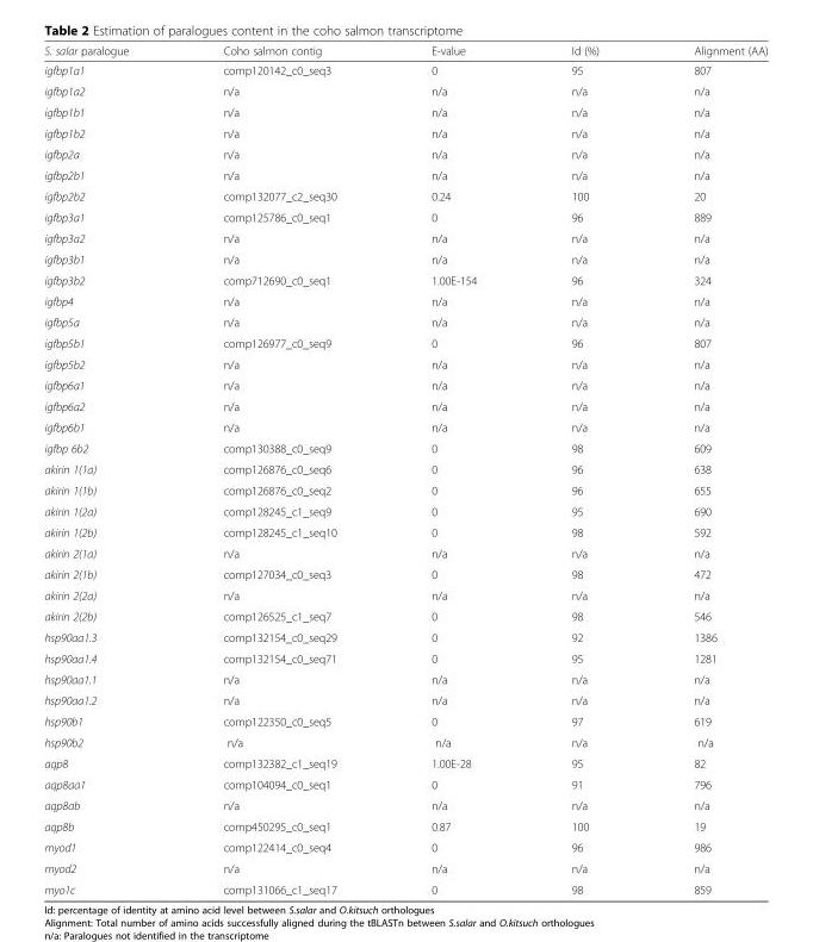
<table><thead><tr><td>S. salar paralogue</td><td>Coho salmon contig</td><td>E-value</td><td>Id (%)</td><td>Alignment (AA)</td></tr></thead><tbody><tr><td>igfbp1a1</td><td>comp120142_c0_seq3</td><td>0</td><td>95</td><td>807</td></tr><tr><td>igfbp1a2</td><td>n/a</td><td>n/a</td><td>n/a</td><td>n/a</td></tr><tr><td>igfbp1b1</td><td>n/a</td><td>n/a</td><td>n/a</td><td>n/a</td></tr><tr><td>igfbp1b2</td><td>n/a</td><td>n/a</td><td>n/a</td><td>n/a</td></tr><tr><td>igfbp2a</td><td>n/a</td><td>n/a</td><td>n/a</td><td>n/a</td></tr><tr><td>igfbp2b1</td><td>n/a</td><td>n/a</td><td>n/a</td><td>n/a</td></tr><tr><td>igfbp2b2</td><td>comp132077_c2_seq30</td><td>0.24</td><td>100</td><td>20</td></tr><tr><td>igfbp3a1</td><td>comp125786_c0_seq1</td><td>0</td><td>96</td><td>889</td></tr><tr><td>igfbp3a2</td><td>n/a</td><td>n/a</td><td>n/a</td><td>n/a</td></tr><tr><td>igfbp3b1</td><td>n/a</td><td>n/a</td><td>n/a</td><td>n/a</td></tr><tr><td>igfbp3b2</td><td>comp712690_c0_seq1</td><td>1.00E-154</td><td>96</td><td>324</td></tr><tr><td>igfbp4</td><td>n/a</td><td>n/a</td><td>n/a</td><td>n/a</td></tr><tr><td>igfbp5a</td><td>n/a</td><td>n/a</td><td>n/a</td><td>n/a</td></tr><tr><td>igfbp5b1</td><td>comp126977_c0_seq9</td><td>0</td><td>96</td><td>807</td></tr><tr><td>igfbp5b2</td><td>n/a</td><td>n/a</td><td>n/a</td><td>n/a</td></tr><tr><td>igfbp6a1</td><td>n/a</td><td>n/a</td><td>n/a</td><td>n/a</td></tr><tr><td>igfbp6a2</td><td>n/a</td><td>n/a</td><td>n/a</td><td>n/a</td></tr><tr><td>igfbp6b1</td><td>n/a</td><td>n/a</td><td>n/a</td><td>n/a</td></tr><tr><td>igfbp 6b2</td><td>comp130388_c0_seq9</td><td>0</td><td>98</td><td>609</td></tr><tr><td>akirin 1(1a)</td><td>comp126876_c0_seq6</td><td>0</td><td>96</td><td>638</td></tr><tr><td>akirin 1(1b)</td><td>comp126876_c0_seq2</td><td>0</td><td>96</td><td>655</td></tr><tr><td>akirin 1(2a)</td><td>comp128245_c1_seq9</td><td>0</td><td>95</td><td>690</td></tr><tr><td>akirin 1(2b)</td><td>comp128245_c1_seq10</td><td>0</td><td>98</td><td>592</td></tr><tr><td>akirin 2(1a)</td><td>n/a</td><td>n/a</td><td>n/a</td><td>n/a</td></tr><tr><td>akirin 2(1b)</td><td>comp127034_c0_seq3</td><td>0</td><td>98</td><td>472</td></tr><tr><td>akirin 2(2a)</td><td>n/a</td><td>n/a</td><td>n/a</td><td>n/a</td></tr><tr><td>akirin 2(2b)</td><td>comp126525_c1_seq7</td><td>0</td><td>98</td><td>546</td></tr><tr><td>hsp90aa1.3</td><td>comp132154_c0_seq29</td><td>0</td><td>92</td><td>1386</td></tr><tr><td>hsp90aa1.4</td><td>comp132154_c0_seq71</td><td>0</td><td>95</td><td>1281</td></tr><tr><td>hsp90aa1.1</td><td>n/a</td><td>n/a</td><td>n/a</td><td>n/a</td></tr><tr><td>hsp90aa1.2</td><td>n/a</td><td>n/a</td><td>n/a</td><td>n/a</td></tr><tr><td>hsp90b1</td><td>comp122350_c0_seq5</td><td>0</td><td>97</td><td>619</td></tr><tr><td>hsp90b2</td><td>n/a</td><td>n/a</td><td>n/a</td><td>n/a</td></tr><tr><td>aqp8</td><td>comp132382_c1_seq19</td><td>1.00E-28</td><td>95</td><td>82</td></tr><tr><td>aqp8aa1</td><td>comp104094_c0_seq1</td><td>0</td><td>91</td><td>796</td></tr><tr><td>aqp8ab</td><td>n/a</td><td>n/a</td><td>n/a</td><td>n/a</td></tr><tr><td>aqp8b</td><td>comp450295_c0_seq1</td><td>0.87</td><td>100</td><td>19</td></tr><tr><td>myod1</td><td>comp122414_c0_seq4</td><td>0</td><td>96</td><td>986</td></tr><tr><td>myod2</td><td>n/a</td><td>n/a</td><td>n/a</td><td>n/a</td></tr><tr><td>myo1c</td><td>comp131066_c1_seq17</td><td>0</td><td>98</td><td>859</td></tr></tbody></table>